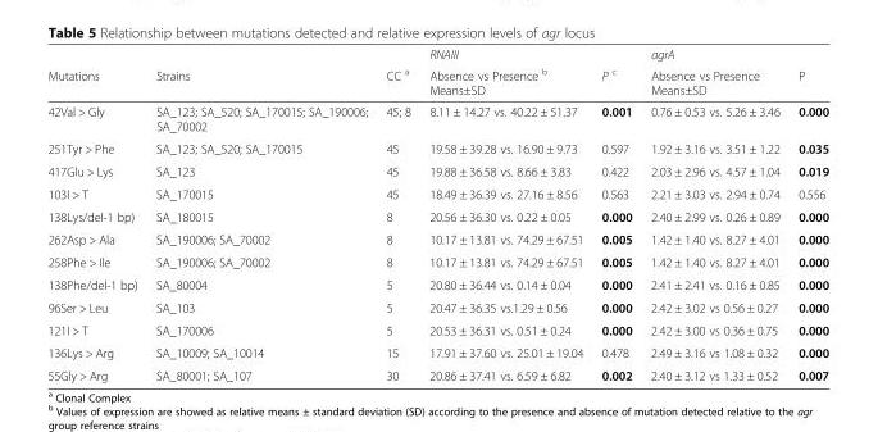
<table><thead><tr><td rowspan="2">Mutations</td><td rowspan="2">Strains</td><td rowspan="2">CC <sup>a</sup></td><td rowspan="2">RNAIII Absence vs Presence <sup>b</sup> Means±SD</td><td rowspan="2">P <sup>c</sup></td><td rowspan="2">agrA Absence vs Presence Means±SD</td><td rowspan="2">P</td></tr><tr></tr></thead><tbody><tr><td>42Val &gt; Gly</td><td>SA_123; SA_520; SA_170015; SA_190006; SA_70002</td><td>45; 8</td><td>8.11 ± 14.27 vs. 40.22 ± 51.37</td><td>0.001</td><td>0.76 ± 0.53 vs. 5.26 ± 3.46</td><td>0.000</td></tr><tr><td>251Tyr &gt; Phe</td><td>SA_123; SA_520; SA_170015</td><td>45</td><td>19.58 ± 39.28 vs. 16.90 ± 9.73</td><td>0.597</td><td>1.92 ± 3.16 vs. 3.51 ± 1.22</td><td>0.035</td></tr><tr><td>417Glu &gt; Lys</td><td>SA_123</td><td>45</td><td>19.88 ± 36.58 vs. 8.66 ± 3.83</td><td>0.422</td><td>2.03 ± 2.96 vs. 4.57 ± 1.04</td><td>0.019</td></tr><tr><td>103I &gt; T</td><td>SA_170015</td><td>45</td><td>18.49 ± 36.39 vs. 27.16 ± 8.56</td><td>0.563</td><td>2.21 ± 3.03 vs. 2.94 ± 0.74</td><td>0.556</td></tr><tr><td>138Lys/del-1 bp)</td><td>SA_180015</td><td>8</td><td>20.56 ± 36.30 vs. 0.22 ± 0.05</td><td>0.000</td><td>2.40 ± 2.99 vs. 0.26 ± 0.89</td><td>0.000</td></tr><tr><td>262Asp &gt; Ala</td><td>SA_190006; SA_70002</td><td>8</td><td>10.17 ± 13.81 vs. 74.29 ± 67.51</td><td>0.005</td><td>1.42 ± 1.40 vs. 8.27 ± 4.01</td><td>0.000</td></tr><tr><td>258Phe &gt; Ile</td><td>SA_190006; SA_70002</td><td>8</td><td>10.17 ± 13.81 vs. 74.29 ± 67.51</td><td>0.005</td><td>1.42 ± 1.40 vs. 8.27 ± 4.01</td><td>0.000</td></tr><tr><td>138Phe/del-1 bp)</td><td>SA_80004</td><td>5</td><td>20.80 ± 36.44 vs. 0.14 ± 0.04</td><td>0.000</td><td>2.41 ± 2.41 vs. 0.16 ± 0.85</td><td>0.000</td></tr><tr><td>96Ser &gt; Leu</td><td>SA_103</td><td>5</td><td>20.47 ± 36.35 vs.1.29 ± 0.56</td><td>0.000</td><td>2.42 ± 3.02 vs 0.56 ± 0.27</td><td>0.000</td></tr><tr><td>121I &gt; T</td><td>SA_170006</td><td>5</td><td>20.53 ± 36.31 vs. 0.51 ± 0.24</td><td>0.000</td><td>2.42 ± 3.00 vs 0.36 ± 0.75</td><td>0.000</td></tr><tr><td>136Lys &gt; Arg</td><td>SA_10009; SA_10014</td><td>15</td><td>17.91 ± 37.60 vs. 25.01 ± 19.04</td><td>0.478</td><td>2.49 ± 3.16 vs 1.08 ± 0.32</td><td>0.000</td></tr><tr><td>55Gly &gt; Arg</td><td>SA_80001; SA_107</td><td>30</td><td>20.86 ± 37.41 vs. 6.59 ± 6.82</td><td>0.002</td><td>2.40 ± 3.12 vs 1.33 ± 0.52</td><td>0.007</td></tr></tbody></table>